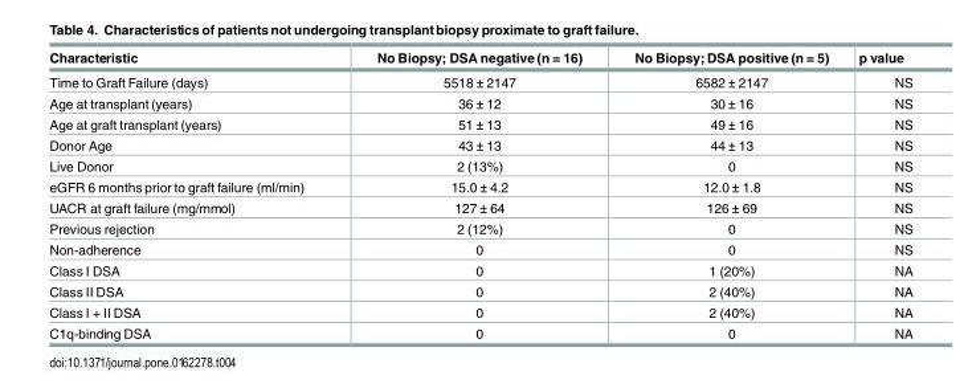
<table><thead><tr><td>Characteristic</td><td>No Biopsy; DSA negative (n = 16)</td><td>No Biopsy; DSA positive (n = 5)</td><td>p value</td></tr></thead><tbody><tr><td>Time to Graft Failure (days)</td><td>5518 ± 2147</td><td>6582 ± 2147</td><td>NS</td></tr><tr><td>Age at transplant (years)</td><td>36 ± 12</td><td>30 ± 16</td><td>NS</td></tr><tr><td>Age at graft transplant (years)</td><td>51 ± 13</td><td>49 ± 16</td><td>NS</td></tr><tr><td>Donor Age</td><td>43 ± 13</td><td>44 ± 13</td><td>NS</td></tr><tr><td>Live Donor</td><td>2 (13%)</td><td>0</td><td>NS</td></tr><tr><td>eGFR 6 months prior to graft failure (ml/min)</td><td>15.0 ± 4.2</td><td>12.0 ± 1.8</td><td>NS</td></tr><tr><td>UACR at graft failure (mg/mmol)</td><td>127 ± 64</td><td>126 ± 69</td><td>NS</td></tr><tr><td>Previous rejection</td><td>2 (12%)</td><td>0</td><td>NS</td></tr><tr><td>Non-adherence</td><td>0</td><td>0</td><td>NS</td></tr><tr><td>Class I DSA</td><td>0</td><td>1 (20%)</td><td>NA</td></tr><tr><td>Class II DSA</td><td>0</td><td>2 (40%)</td><td>NA</td></tr><tr><td>Class I + II DSA</td><td>0</td><td>2 (40%)</td><td>NA</td></tr><tr><td>C1q-binding DSA</td><td>0</td><td>0</td><td>NA</td></tr></tbody></table>